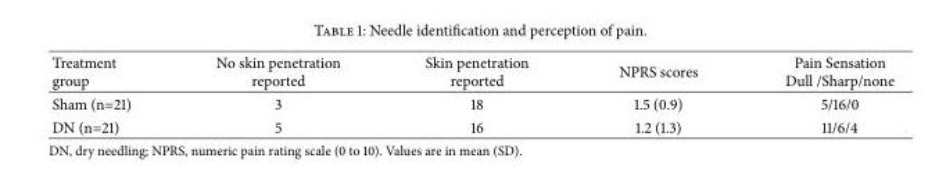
<table><thead><tr><td>Treatment group</td><td>No skin penetration reported</td><td>Skin penetration reported</td><td>NPRS scores</td><td>Pain Sensation Dull /Sharp/none</td></tr></thead><tbody><tr><td>Sham (n=21)</td><td>3</td><td>18</td><td>1.5 (0.9)</td><td>5/16/0</td></tr><tr><td>DN (n=21)</td><td>5</td><td>16</td><td>1.2 (1.3)</td><td>11/6/4</td></tr></tbody></table>